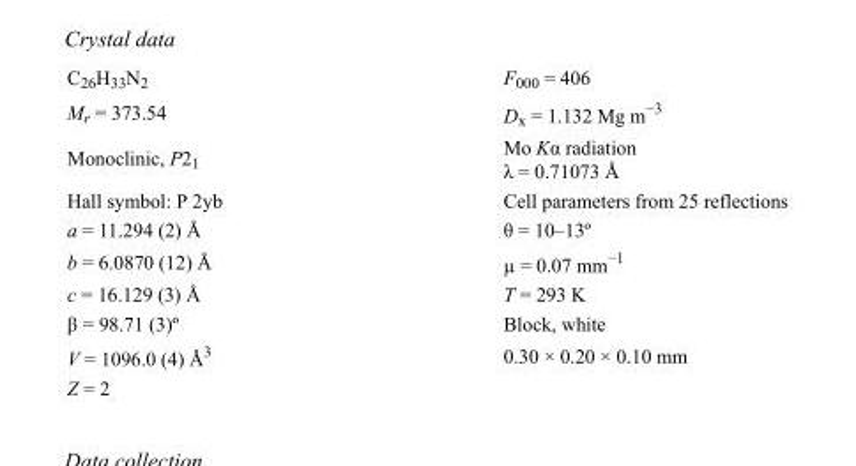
<table><tbody><tr><td>C<sub>26</sub>H<sub>33</sub>N<sub>2</sub></td><td>F000 = 406</td></tr><tr><td>M<sub>r</sub> = 373.54</td><td>D<sub>x</sub> = 1.132 Mg m<sup>−3</sup></td></tr><tr><td>Monoclinic, P2<sub>1</sub></td><td>Mo Kα radiation λ = 0.71073 Å</td></tr><tr><td>Hall symbol: P 2yb</td><td>Cell parameters from 25 reflections</td></tr><tr><td>a = 11.294 (2) Å</td><td>θ = 10–13º</td></tr><tr><td>b = 6.0870 (12) Å</td><td>µ = 0.07 mm<sup>−1</sup></td></tr><tr><td>c = 16.129 (3) Å</td><td>T = 293 K</td></tr><tr><td>β = 98.71 (3)º</td><td>Block, white</td></tr><tr><td>V = 1096.0 (4) Å<sup>3</sup></td><td>0.30 × 0.20 × 0.10 mm</td></tr><tr><td>Z = 2</td><td></td></tr></tbody></table>